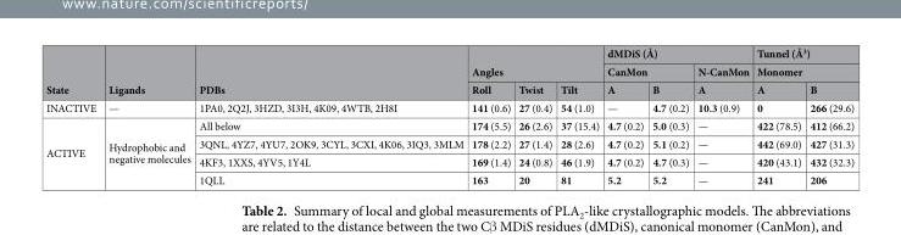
<table><thead><tr><td rowspan="3">State</td><td rowspan="3">Ligands</td><td rowspan="3">PDBs</td><td rowspan="2" colspan="3">Angles</td><td colspan="3">dMDiS (Å)</td><td rowspan="2" colspan="2">Tunnel (Å<sup>3</sup>) Monomer</td></tr><tr><td colspan="2">CanMon</td><td rowspan="2">N-CanMon A</td></tr><tr><td>Roll</td><td>Twist</td><td>Tilt</td><td>A</td><td>B</td><td>A</td><td>B</td></tr></thead><tbody><tr><td>INACTIVE</td><td>—</td><td>1PA0, 2Q2J, 3HZD, 3I3H, 4K09, 4WTB, 2H8I</td><td>141 (0.6)</td><td>27 (0.4)</td><td>54 (1.0)</td><td>—</td><td>4.7 (0.2)</td><td>10.3 (0.9)</td><td>0</td><td>266 (29.6)</td></tr><tr><td rowspan="4">ACTIVE</td><td rowspan="4">Hydrophobic and negative molecules</td><td>All below</td><td>174 (5.5)</td><td>26 (2.6)</td><td>37 (15.4)</td><td>4.7 (0.2)</td><td>5.0 (0.3)</td><td>—</td><td>422 (78.5)</td><td>412 (66.2)</td></tr><tr><td>3QNL, 4YZ7, 4YU7, 2OK9, 3CYL, 3CXI, 4K06, 3IQ3, 3MLM</td><td>178 (2.2)</td><td>27 (1.4)</td><td>28 (2.6)</td><td>4.7 (0.2)</td><td>5.1 (0.2)</td><td>—</td><td>442 (69.0)</td><td>427 (31.3)</td></tr><tr><td>4KF3, 1XXS, 4YV5, 1Y4L</td><td>169 (1.4)</td><td>24 (0.8)</td><td>46 (1.9)</td><td>4.7 (0.2)</td><td>4.7 (0.3)</td><td>—</td><td>420 (43.1)</td><td>432 (32.3)</td></tr><tr><td>1QLL</td><td>163</td><td>20</td><td>81</td><td>5.2</td><td>5.2</td><td>—</td><td>241</td><td>206</td></tr></tbody></table>